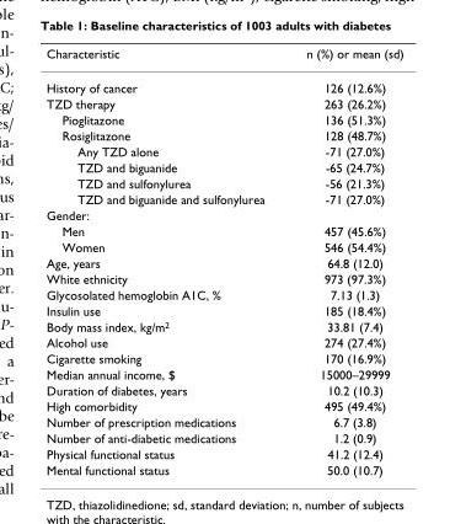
<table><thead><tr><td>Characteristic</td><td>n (%) or mean (sd)</td></tr></thead><tbody><tr><td>History of cancer</td><td>126 (12.6%)</td></tr><tr><td>TZD therapy</td><td>263 (26.2%)</td></tr><tr><td>Pioglitazone</td><td>136 (51.3%)</td></tr><tr><td>Rosiglitazone</td><td>128 (48.7%)</td></tr><tr><td>Any TZD alone</td><td>-71 (27.0%)</td></tr><tr><td>TZD and biguanide</td><td>-65 (24.7%)</td></tr><tr><td>TZD and sulfonylurea</td><td>-56 (21.3%)</td></tr><tr><td>TZD and biguanide and sulfonylurea</td><td>-71 (27.0%)</td></tr><tr><td colspan="2">Gender:</td></tr><tr><td>Men</td><td>457 (45.6%)</td></tr><tr><td>Women</td><td>546 (54.4%)</td></tr><tr><td>Age, years</td><td>64.8 (12.0)</td></tr><tr><td>White ethnicity</td><td>973 (97.3%)</td></tr><tr><td>Glycosolated hemoglobin A1C, %</td><td>7.13 (1.3)</td></tr><tr><td>Insulin use</td><td>185 (18.4%)</td></tr><tr><td>Body mass index, kg/m<sup>2</sup></td><td>33.81 (7.4)</td></tr><tr><td>Alcohol use</td><td>274 (27.4%)</td></tr><tr><td>Cigarette smoking</td><td>170 (16.9%)</td></tr><tr><td>Median annual income, $</td><td>15000–29999</td></tr><tr><td>Duration of diabetes, years</td><td>10.2 (10.3)</td></tr><tr><td>High comorbidity</td><td>495 (49.4%)</td></tr><tr><td>Number of prescription medications</td><td>6.7 (3.8)</td></tr><tr><td>Number of anti-diabetic medications</td><td>1.2 (0.9)</td></tr><tr><td>Physical functional status</td><td>41.2 (12.4)</td></tr><tr><td>Mental functional status</td><td>50.0 (10.7)</td></tr></tbody></table>